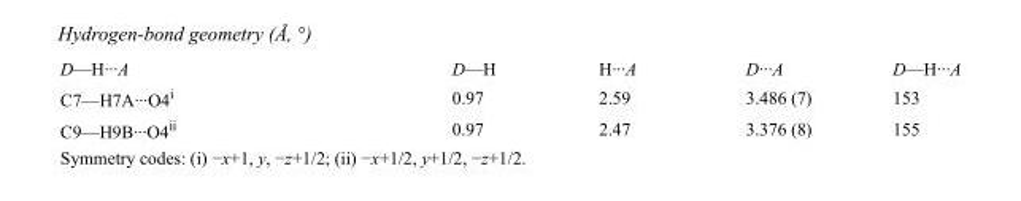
<table><tbody><tr><td>D—H···A</td><td>D—H</td><td>H···A</td><td>D···A</td><td>D—H···A</td></tr><tr><td>C7—H7A···O4<sup>i</sup></td><td>0.97</td><td>2.59</td><td>3.486 (7)</td><td>153</td></tr><tr><td>C9—H9B···O4<sup>ii</sup></td><td>0.97</td><td>2.47</td><td>3.376 (8)</td><td>155</td></tr></tbody></table>